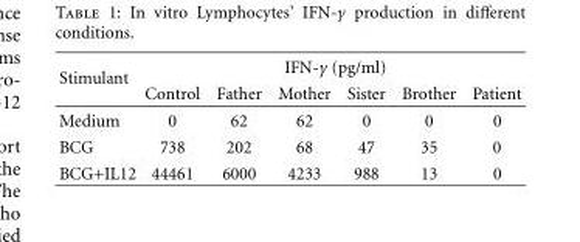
<table><thead><tr><td rowspan="2">Stimulant</td><td colspan="6">IFN-γ (pg/ml)</td></tr><tr><td>Control</td><td>Father</td><td>Mother</td><td>Sister</td><td>Brother</td><td>Patient</td></tr></thead><tbody><tr><td>Medium</td><td>0</td><td>62</td><td>62</td><td>0</td><td>0</td><td>0</td></tr><tr><td>BCG</td><td>738</td><td>202</td><td>68</td><td>47</td><td>35</td><td>0</td></tr><tr><td>BCG+IL12</td><td>44461</td><td>6000</td><td>4233</td><td>988</td><td>13</td><td>0</td></tr></tbody></table>